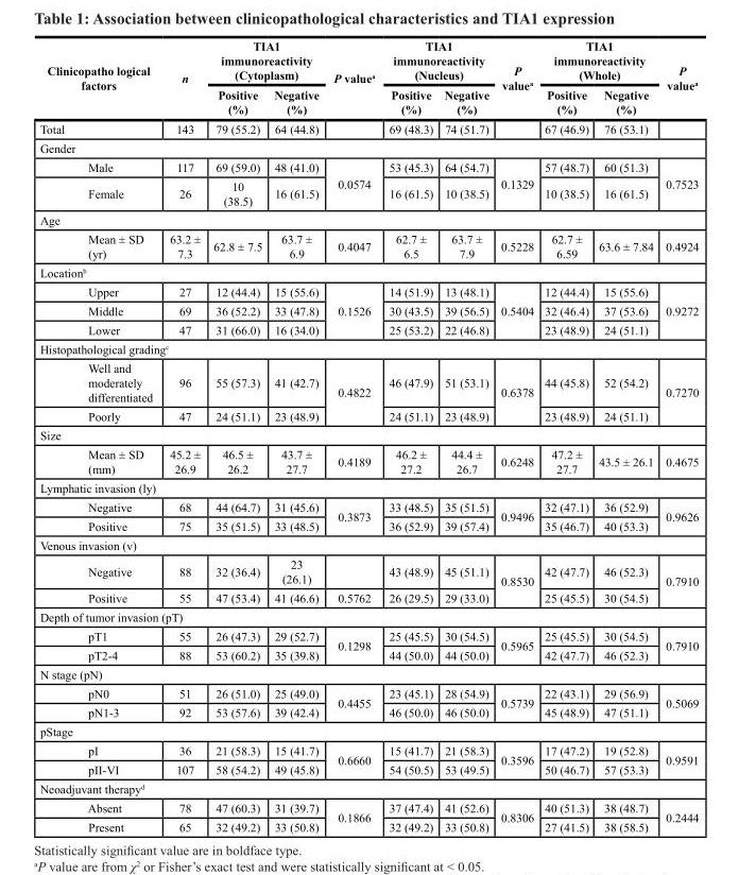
<table><thead><tr><td rowspan="2">Clinicopatho logical factors</td><td rowspan="2">n</td><td colspan="2">TIA1 immunoreactivity (Cytoplasm)</td><td rowspan="2">P value<sup>a</sup></td><td colspan="2">TIA1 immunoreactivity (Nucleus)</td><td rowspan="2">P value<sup>a</sup></td><td colspan="2">TIA1 immunoreactivity (Whole)</td><td rowspan="2">P value<sup>a</sup></td></tr><tr><td>Positive (%)</td><td>Negative (%)</td><td>Positive (%)</td><td>Negative (%)</td><td>Positive (%)</td><td>Negative (%)</td></tr></thead><tbody><tr><td>Total</td><td>143</td><td>79 (55.2)</td><td>64 (44.8)</td><td></td><td>69 (48.3)</td><td>74 (51.7)</td><td></td><td>67 (46.9)</td><td>76 (53.1)</td><td></td></tr><tr><td colspan="11">Gender</td></tr><tr><td>Male</td><td>117</td><td>69 (59.0)</td><td>48 (41.0)</td><td rowspan="2">0.0574</td><td>53 (45.3)</td><td>64 (54.7)</td><td rowspan="2">0.1329</td><td>57 (48.7)</td><td>60 (51.3)</td><td rowspan="2">0.7523</td></tr><tr><td>Female</td><td>26</td><td>10 (38.5)</td><td>16 (61.5)</td><td>16 (61.5)</td><td>10 (38.5)</td><td>10 (38.5)</td><td>16 (61.5)</td></tr><tr><td colspan="11">Age</td></tr><tr><td>Mean ± SD (yr)</td><td>63.2 ± 7.3</td><td>62.8 ± 7.5</td><td>63.7 ± 6.9</td><td>0.4047</td><td>62.7 ± 6.5</td><td>63.7 ± 7.9</td><td>0.5228</td><td>62.7 ± 6.59</td><td>63.6 ± 7.84</td><td>0.4924</td></tr><tr><td colspan="11">Location<sup>b</sup></td></tr><tr><td>Upper</td><td>27</td><td>12 (44.4)</td><td>15 (55.6)</td><td rowspan="3">0.1526</td><td>14 (51.9)</td><td>13 (48.1)</td><td rowspan="3">0.5404</td><td>12 (44.4)</td><td>15 (55.6)</td><td rowspan="3">0.9272</td></tr><tr><td>Middle</td><td>69</td><td>36 (52.2)</td><td>33 (47.8)</td><td>30 (43.5)</td><td>39 (56.5)</td><td>32 (46.4)</td><td>37 (53.6)</td></tr><tr><td>Lower</td><td>47</td><td>31 (66.0)</td><td>16 (34.0)</td><td>25 (53.2)</td><td>22 (46.8)</td><td>23 (48.9)</td><td>24 (51.1)</td></tr><tr><td colspan="11">Histopathological grading<sup>c</sup></td></tr><tr><td>Well and moderately differentiated</td><td>96</td><td>55 (57.3)</td><td>41 (42.7)</td><td rowspan="2">0.4822</td><td>46 (47.9)</td><td>51 (53.1)</td><td rowspan="2">0.6378</td><td>44 (45.8)</td><td>52 (54.2)</td><td rowspan="2">0.7270</td></tr><tr><td>Poorly</td><td>47</td><td>24 (51.1)</td><td>23 (48.9)</td><td>24 (51.1)</td><td>23 (48.9)</td><td>23 (48.9)</td><td>24 (51.1)</td></tr><tr><td colspan="11">Size</td></tr><tr><td>Mean ± SD (mm)</td><td>45.2 ± 26.9</td><td>46.5 ± 26.2</td><td>43.7 ± 27.7</td><td>0.4189</td><td>46.2 ± 27.2</td><td>44.4 ± 26.7</td><td>0.6248</td><td>47.2 ± 27.7</td><td>43.5 ± 26.1</td><td>0.4675</td></tr><tr><td colspan="11">Lymphatic invasion (ly)</td></tr><tr><td>Negative</td><td>68</td><td>44 (64.7)</td><td>31 (45.6)</td><td rowspan="2">0.3873</td><td>33 (48.5)</td><td>35 (51.5)</td><td rowspan="2">0.9496</td><td>32 (47.1)</td><td>36 (52.9)</td><td rowspan="2">0.9626</td></tr><tr><td>Positive</td><td>75</td><td>35 (51.5)</td><td>33 (48.5)</td><td>36 (52.9)</td><td>39 (57.4)</td><td>35 (46.7)</td><td>40 (53.3)</td></tr><tr><td colspan="11">Venous invasion (v)</td></tr><tr><td>Negative</td><td>88</td><td>32 (36.4)</td><td>23 (26.1)</td><td></td><td>43 (48.9)</td><td>45 (51.1)</td><td rowspan="2">0.8530</td><td>42 (47.7)</td><td>46 (52.3)</td><td rowspan="2">0.7910</td></tr><tr><td>Positive</td><td>55</td><td>47 (53.4)</td><td>41 (46.6)</td><td>0.5762</td><td>26 (29.5)</td><td>29 (33.0)</td><td>25 (45.5)</td><td>30 (54.5)</td></tr><tr><td colspan="11">Depth of tumor invasion (pT)</td></tr><tr><td>pT1</td><td>55</td><td>26 (47.3)</td><td>29 (52.7)</td><td rowspan="2">0.1298</td><td>25 (45.5)</td><td>30 (54.5)</td><td rowspan="2">0.5965</td><td>25 (45.5)</td><td>30 (54.5)</td><td rowspan="2">0.7910</td></tr><tr><td>pT2-4</td><td>88</td><td>53 (60.2)</td><td>35 (39.8)</td><td>44 (50.0)</td><td>44 (50.0)</td><td>42 (47.7)</td><td>46 (52.3)</td></tr><tr><td colspan="11">N stage (pN)</td></tr><tr><td>pN0</td><td>51</td><td>26 (51.0)</td><td>25 (49.0)</td><td rowspan="2">0.4455</td><td>23 (45.1)</td><td>28 (54.9)</td><td rowspan="2">0.5739</td><td>22 (43.1)</td><td>29 (56.9)</td><td rowspan="2">0.5069</td></tr><tr><td>pN1-3</td><td>92</td><td>53 (57.6)</td><td>39 (42.4)</td><td>46 (50.0)</td><td>46 (50.0)</td><td>45 (48.9)</td><td>47 (51.1)</td></tr><tr><td colspan="11">pStage</td></tr><tr><td>pI</td><td>36</td><td>21 (58.3)</td><td>15 (41.7)</td><td rowspan="2">0.6660</td><td>15 (41.7)</td><td>21 (58.3)</td><td rowspan="2">0.3596</td><td>17 (47.2)</td><td>19 (52.8)</td><td rowspan="2">0.9591</td></tr><tr><td>pII-VI</td><td>107</td><td>58 (54.2)</td><td>49 (45.8)</td><td>54 (50.5)</td><td>53 (49.5)</td><td>50 (46.7)</td><td>57 (53.3)</td></tr><tr><td colspan="11">Neoadjuvant therapy<sup>d</sup></td></tr><tr><td>Absent</td><td>78</td><td>47 (60.3)</td><td>31 (39.7)</td><td rowspan="2">0.1866</td><td>37 (47.4)</td><td>41 (52.6)</td><td rowspan="2">0.8306</td><td>40 (51.3)</td><td>38 (48.7)</td><td rowspan="2">0.2444</td></tr><tr><td>Present</td><td>65</td><td>32 (49.2)</td><td>33 (50.8)</td><td>32 (49.2)</td><td>33 (50.8)</td><td>27 (41.5)</td><td>38 (58.5)</td></tr></tbody></table>